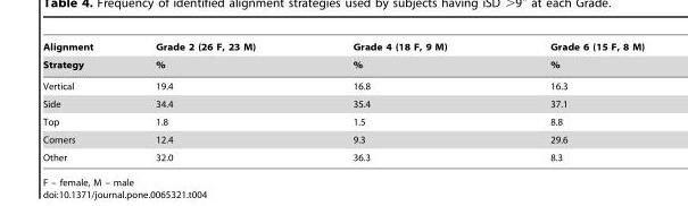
<table><thead><tr><td rowspan="2">Alignment Strategy</td><td rowspan="2">Grade 2 (26 F, 23 M) %</td><td rowspan="2">Grade 4 (18 F, 9 M) %</td><td rowspan="2">Grade 6 (15 F, 8 M) %</td></tr><tr></tr></thead><tbody><tr><td>Vertical</td><td>19.4</td><td>16.8</td><td>16.3</td></tr><tr><td>Side</td><td>34.4</td><td>35.4</td><td>37.1</td></tr><tr><td>Top</td><td>1.8</td><td>1.5</td><td>8.8</td></tr><tr><td>Corners</td><td>12.4</td><td>9.3</td><td>29.6</td></tr><tr><td>Other</td><td>32.0</td><td>36.3</td><td>8.3</td></tr></tbody></table>